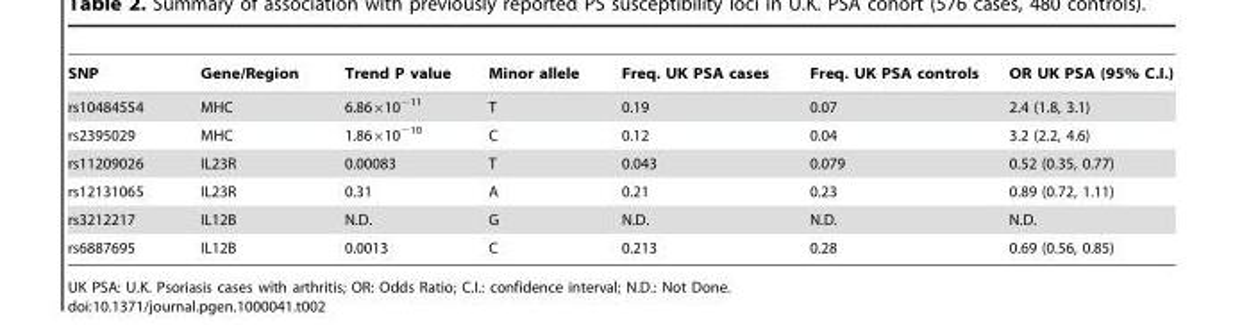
<table><thead><tr><td>SNP</td><td>Gene/Region</td><td>Trend P value</td><td>Minor allele</td><td>Freq. UK PSA cases</td><td>Freq. UK PSA controls</td><td>OR UK PSA (95% C.I.)</td></tr></thead><tbody><tr><td>rs10484554</td><td>MHC</td><td>6.86×10<sup>−11</sup></td><td>T</td><td>0.19</td><td>0.07</td><td>2.4 (1.8, 3.1)</td></tr><tr><td>rs2395029</td><td>MHC</td><td>1.86×10<sup>−10</sup></td><td>C</td><td>0.12</td><td>0.04</td><td>3.2 (2.2, 4.6)</td></tr><tr><td>rs11209026</td><td>IL23R</td><td>0.00083</td><td>T</td><td>0.043</td><td>0.079</td><td>0.52 (0.35, 0.77)</td></tr><tr><td>rs12131065</td><td>IL23R</td><td>0.31</td><td>A</td><td>0.21</td><td>0.23</td><td>0.89 (0.72, 1.11)</td></tr><tr><td>rs3212217</td><td>IL12B</td><td>N.D.</td><td>G</td><td>N.D.</td><td>N.D.</td><td>N.D.</td></tr><tr><td>rs6887695</td><td>IL12B</td><td>0.0013</td><td>C</td><td>0.213</td><td>0.28</td><td>0.69 (0.56, 0.85)</td></tr></tbody></table>